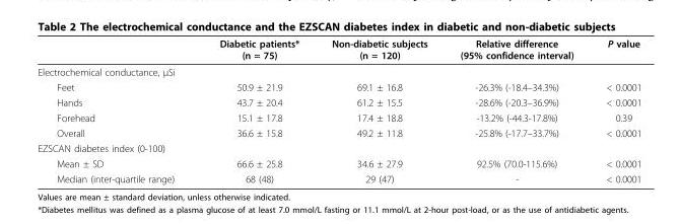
<table><thead><tr><td></td><td>Diabetic patients* (n = 75)</td><td>Non-diabetic subjects (n = 120)</td><td>Relative difference (95% confidence interval)</td><td>P value</td></tr></thead><tbody><tr><td colspan="5">Electrochemical conductance, μSi</td></tr><tr><td>Feet</td><td>50.9 ± 21.9</td><td>69.1 ± 16.8</td><td>-26.3% (-18.4–34.3%)</td><td>&lt; 0.0001</td></tr><tr><td>Hands</td><td>43.7 ± 20.4</td><td>61.2 ± 15.5</td><td>-28.6% (-20.3–36.9%)</td><td>&lt; 0.0001</td></tr><tr><td>Forehead</td><td>15.1 ± 17.8</td><td>17.4 ± 18.8</td><td>-13.2% (-44.3-17.8%)</td><td>0.39</td></tr><tr><td>Overall</td><td>36.6 ± 15.8</td><td>49.2 ± 11.8</td><td>-25.8% (-17.7–33.7%)</td><td>&lt; 0.0001</td></tr><tr><td colspan="5">EZSCAN diabetes index (0-100)</td></tr><tr><td>Mean ± SD</td><td>66.6 ± 25.8</td><td>34.6 ± 27.9</td><td>92.5% (70.0-115.6%)</td><td>&lt; 0.0001</td></tr><tr><td>Median (inter-quartile range)</td><td>68 (48)</td><td>29 (47)</td><td>-</td><td>&lt; 0.0001</td></tr></tbody></table>